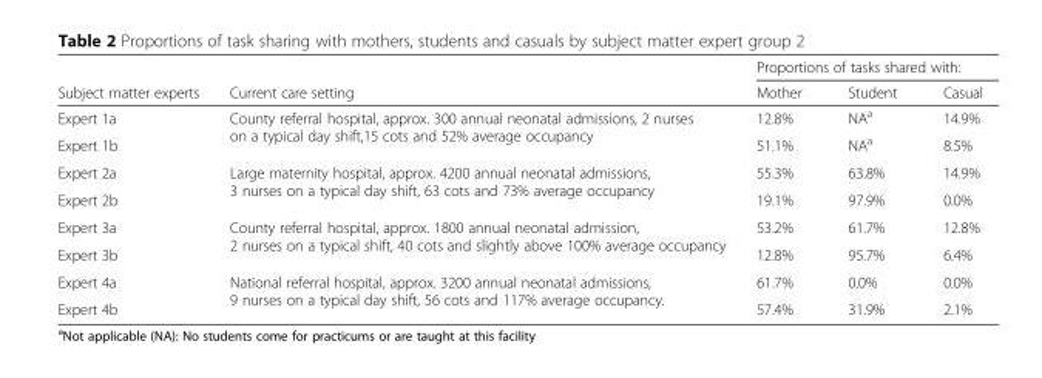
<table><thead><tr><td rowspan="2">Subject matter experts</td><td rowspan="2">Current care setting</td><td colspan="3">Proportions of tasks shared with:</td></tr><tr><td>Mother</td><td>Student</td><td>Casual</td></tr></thead><tbody><tr><td>Expert 1a</td><td rowspan="2">County referral hospital, approx. 300 annual neonatal admissions, 2 nurses on a typical day shift,15 cots and 52% average occupancy</td><td>12.8%</td><td>NA<sup>a</sup></td><td>14.9%</td></tr><tr><td>Expert 1b</td><td>51.1%</td><td>NA<sup>a</sup></td><td>8.5%</td></tr><tr><td>Expert 2a</td><td rowspan="2">Large maternity hospital, approx. 4200 annual neonatal admissions, 3 nurses on a typical day shift, 63 cots and 73% average occupancy</td><td>55.3%</td><td>63.8%</td><td>14.9%</td></tr><tr><td>Expert 2b</td><td>19.1%</td><td>97.9%</td><td>0.0%</td></tr><tr><td>Expert 3a</td><td rowspan="2">County referral hospital, approx. 1800 annual neonatal admission, 2 nurses on a typical shift, 40 cots and slightly above 100% average occupancy</td><td>53.2%</td><td>61.7%</td><td>12.8%</td></tr><tr><td>Expert 3b</td><td>12.8%</td><td>95.7%</td><td>6.4%</td></tr><tr><td>Expert 4a</td><td rowspan="2">National referral hospital, approx. 3200 annual neonatal admissions, 9 nurses on a typical day shift, 56 cots and 117% average occupancy.</td><td>61.7%</td><td>0.0%</td><td>0.0%</td></tr><tr><td>Expert 4b</td><td>57.4%</td><td>31.9%</td><td>2.1%</td></tr></tbody></table>